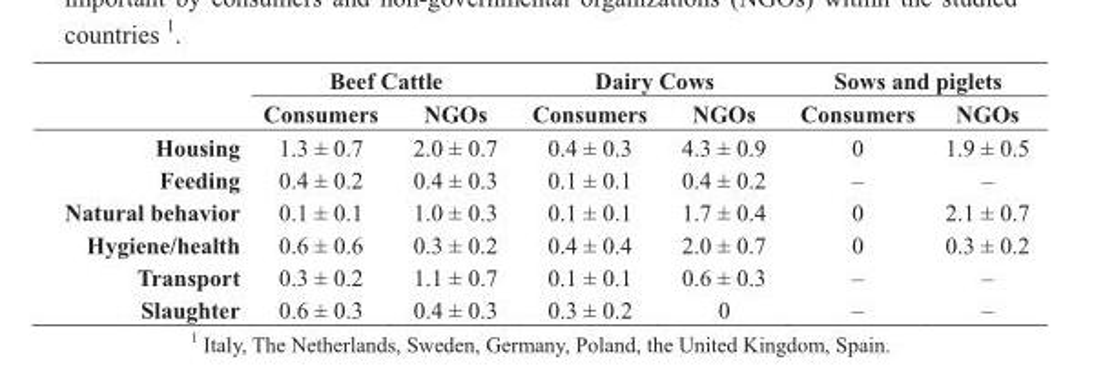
<table><thead><tr><td rowspan="2"></td><td colspan="2">Beef Cattle</td><td colspan="2">Dairy Cows</td><td colspan="2">Sows and piglets</td></tr><tr><td>Consumers</td><td>NGOs</td><td>Consumers</td><td>NGOs</td><td>Consumers</td><td>NGOs</td></tr></thead><tbody><tr><td>Housing</td><td>1.3 ± 0.7</td><td>2.0 ± 0.7</td><td>0.4 ± 0.3</td><td>4.3 ± 0.9</td><td>0</td><td>1.9 ± 0.5</td></tr><tr><td>Feeding</td><td>0.4 ± 0.2</td><td>0.4 ± 0.3</td><td>0.1 ± 0.1</td><td>0.4 ± 0.2</td><td>–</td><td>–</td></tr><tr><td>Natural behavior</td><td>0.1 ± 0.1</td><td>1.0 ± 0.3</td><td>0.1 ± 0.1</td><td>1.7 ± 0.4</td><td>0</td><td>2.1 ± 0.7</td></tr><tr><td>Hygiene/health</td><td>0.6 ± 0.6</td><td>0.3 ± 0.2</td><td>0.4 ± 0.4</td><td>2.0 ± 0.7</td><td>0</td><td>0.3 ± 0.2</td></tr><tr><td>Transport</td><td>0.3 ± 0.2</td><td>1.1 ± 0.7</td><td>0.1 ± 0.1</td><td>0.6 ± 0.3</td><td>–</td><td>–</td></tr><tr><td>Slaughter</td><td>0.6 ± 0.3</td><td>0.4 ± 0.3</td><td>0.3 ± 0.2</td><td>0</td><td>–</td><td>–</td></tr></tbody></table>